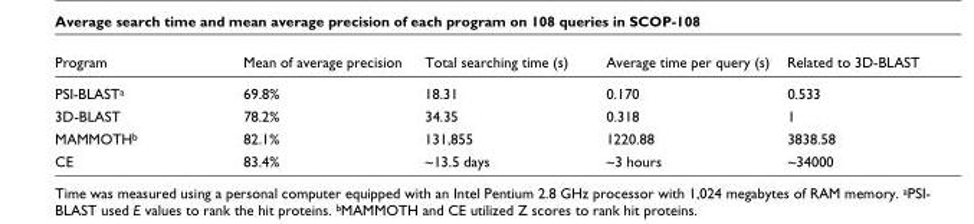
<table><thead><tr><td>Program</td><td>Mean of average precision</td><td>Total searching time (s)</td><td>Average time per query (s)</td><td>Related to 3D-BLAST</td></tr></thead><tbody><tr><td>PSI-BLAST<sup>a</sup></td><td>69.8%</td><td>18.31</td><td>0.170</td><td>0.533</td></tr><tr><td>3D-BLAST</td><td>78.2%</td><td>34.35</td><td>0.318</td><td>1</td></tr><tr><td>MAMMOTH<sup>b</sup></td><td>82.1%</td><td>131,855</td><td>1220.88</td><td>3838.58</td></tr><tr><td>CE</td><td>83.4%</td><td>~13.5 days</td><td>~3 hours</td><td>~34000</td></tr></tbody></table>